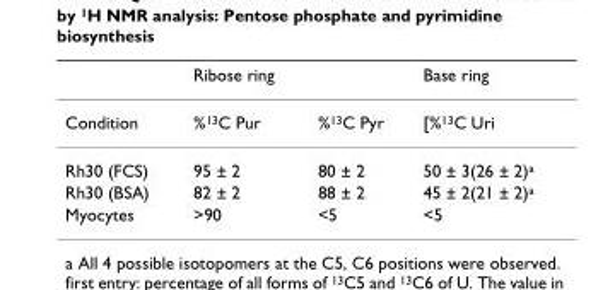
<table><thead><tr><td></td><td>Ribose ring</td><td></td><td>Base ring</td></tr></thead><tbody><tr><td>Condition</td><td>%<sup>13</sup>C Pur</td><td>%<sup>13</sup>C Pyr</td><td>[%<sup>13</sup>C Uri</td></tr><tr><td>Rh30 (FCS)</td><td>95 ± 2</td><td>80 ± 2</td><td>50 ± 3(26 ± 2)<sup>a</sup></td></tr><tr><td>Rh30 (BSA)</td><td>82 ± 2</td><td>88 ± 2</td><td>45 ± 2(21 ± 2)<sup>a</sup></td></tr><tr><td>Myocytes</td><td>&gt;90</td><td>&lt;5</td><td>&lt;5</td></tr></tbody></table>